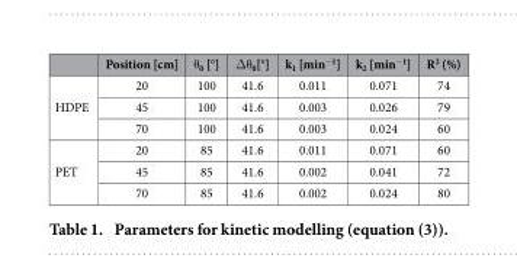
<table><thead><tr><td></td><td>Position [cm]</td><td>θ <sub>0</sub> [°]</td><td>Δ θ <sub>0</sub>[°]</td><td>k<sub>1</sub> [min<sup>−1</sup>]</td><td>k<sub>2</sub> [min<sup>−1</sup>]</td><td>R<sup>2</sup> (%)</td></tr></thead><tbody><tr><td rowspan="3">HDPE</td><td>20</td><td>100</td><td>41.6</td><td>0.011</td><td>0.071</td><td>74</td></tr><tr><td>45</td><td>100</td><td>41.6</td><td>0.003</td><td>0.026</td><td>79</td></tr><tr><td>70</td><td>100</td><td>41.6</td><td>0.003</td><td>0.024</td><td>60</td></tr><tr><td rowspan="3">PET</td><td>20</td><td>85</td><td>41.6</td><td>0.011</td><td>0.071</td><td>60</td></tr><tr><td>45</td><td>85</td><td>41.6</td><td>0.002</td><td>0.041</td><td>72</td></tr><tr><td>70</td><td>85</td><td>41.6</td><td>0.002</td><td>0.024</td><td>80</td></tr></tbody></table>